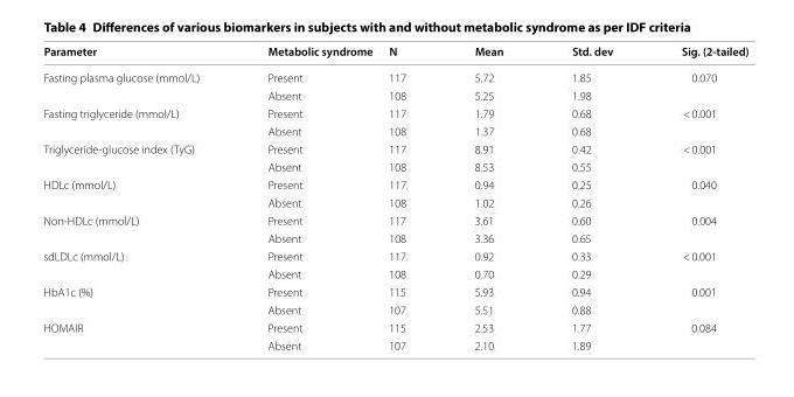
<table><thead><tr><td>Parameter</td><td>Metabolic syndrome</td><td>N</td><td>Mean</td><td>Std. dev</td><td>Sig. (2‑tailed)</td></tr></thead><tbody><tr><td rowspan="2">Fasting plasma glucose (mmol/L)</td><td>Present</td><td>117</td><td>5.72</td><td>1.85</td><td rowspan="2">0.070</td></tr><tr><td>Absent</td><td>108</td><td>5.25</td><td>1.98</td></tr><tr><td rowspan="2">Fasting triglyceride (mmol/L)</td><td>Present</td><td>117</td><td>1.79</td><td>0.68</td><td rowspan="2">&lt; 0.001</td></tr><tr><td>Absent</td><td>108</td><td>1.37</td><td>0.68</td></tr><tr><td rowspan="2">Triglyceride-glucose index (TyG)</td><td>Present</td><td>117</td><td>8.91</td><td>0.42</td><td rowspan="2">&lt; 0.001</td></tr><tr><td>Absent</td><td>108</td><td>8.53</td><td>0.55</td></tr><tr><td rowspan="2">HDLc (mmol/L)</td><td>Present</td><td>117</td><td>0.94</td><td>0.25</td><td rowspan="2">0.040</td></tr><tr><td>Absent</td><td>108</td><td>1.02</td><td>0.26</td></tr><tr><td rowspan="2">Non-HDLc (mmol/L)</td><td>Present</td><td>117</td><td>3.61</td><td>0.60</td><td rowspan="2">0.004</td></tr><tr><td>Absent</td><td>108</td><td>3.36</td><td>0.65</td></tr><tr><td rowspan="2">sdLDLc (mmol/L)</td><td>Present</td><td>117</td><td>0.92</td><td>0.33</td><td rowspan="2">&lt; 0.001</td></tr><tr><td>Absent</td><td>108</td><td>0.70</td><td>0.29</td></tr><tr><td rowspan="2">HbA1c (%)</td><td>Present</td><td>115</td><td>5.93</td><td>0.94</td><td rowspan="2">0.001</td></tr><tr><td>Absent</td><td>107</td><td>5.51</td><td>0.88</td></tr><tr><td rowspan="2">HOMAIR</td><td>Present</td><td>115</td><td>2.53</td><td>1.77</td><td rowspan="2">0.084</td></tr><tr><td>Absent</td><td>107</td><td>2.10</td><td>1.89</td></tr></tbody></table>